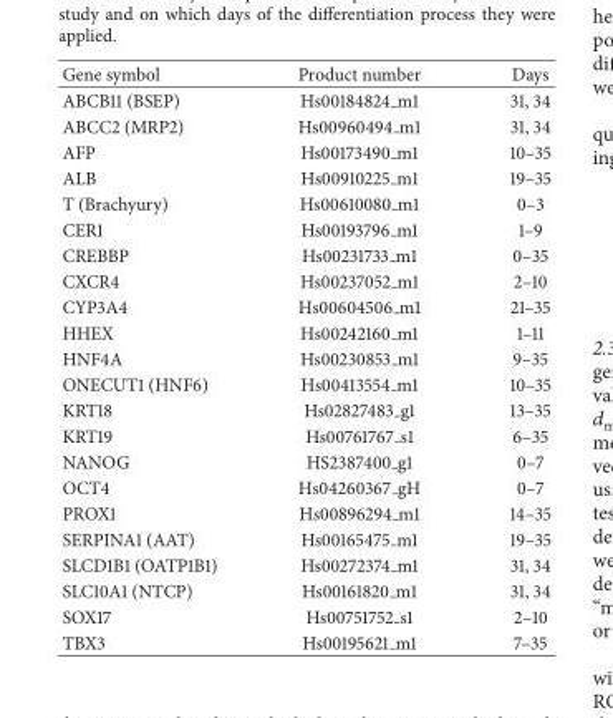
<table><thead><tr><td>Gene symbol</td><td>Product number</td><td>Days</td></tr></thead><tbody><tr><td>ABCB11 (BSEP)</td><td>Hs00184824 m1</td><td>31, 34</td></tr><tr><td>ABCC2 (MRP2)</td><td>Hs00960494 m1</td><td>31, 34</td></tr><tr><td>AFP</td><td>Hs00173490 m1</td><td>10–35</td></tr><tr><td>ALB</td><td>Hs00910225 m1</td><td>19–35</td></tr><tr><td>T (Brachyury)</td><td>Hs00610080 m1</td><td>0–3</td></tr><tr><td>CER1</td><td>Hs00193796 m1</td><td>1–9</td></tr><tr><td>CREBBP</td><td>Hs00231733 m1</td><td>0–35</td></tr><tr><td>CXCR4</td><td>Hs00237052 m1</td><td>2–10</td></tr><tr><td>CYP3A4</td><td>Hs00604506 m1</td><td>21–35</td></tr><tr><td>HHEX</td><td>Hs00242160 m1</td><td>1–11</td></tr><tr><td>HNF4A</td><td>Hs00230853 m1</td><td>9–35</td></tr><tr><td>ONECUT1 (HNF6)</td><td>Hs00413554 m1</td><td>10–35</td></tr><tr><td>KRT18</td><td>Hs02827483 g1</td><td>13–35</td></tr><tr><td>KRT19</td><td>Hs00761767 s1</td><td>6–35</td></tr><tr><td>NANOG</td><td>HS2387400 g1</td><td>0–7</td></tr><tr><td>OCT4</td><td>Hs04260367 gH</td><td>0–7</td></tr><tr><td>PROX1</td><td>Hs00896294 m1</td><td>14–35</td></tr><tr><td>SERPINA1 (AAT)</td><td>Hs00165475 m1</td><td>19–35</td></tr><tr><td>SLCD1B1 (OATP1B1)</td><td>Hs00272374 m1</td><td>31, 34</td></tr><tr><td>SLC10A1 (NTCP)</td><td>Hs00161820 m1</td><td>31, 34</td></tr><tr><td>SOX17</td><td>Hs00751752 s1</td><td>2–10</td></tr><tr><td>TBX3</td><td>Hs00195621 m1</td><td>7–35</td></tr></tbody></table>